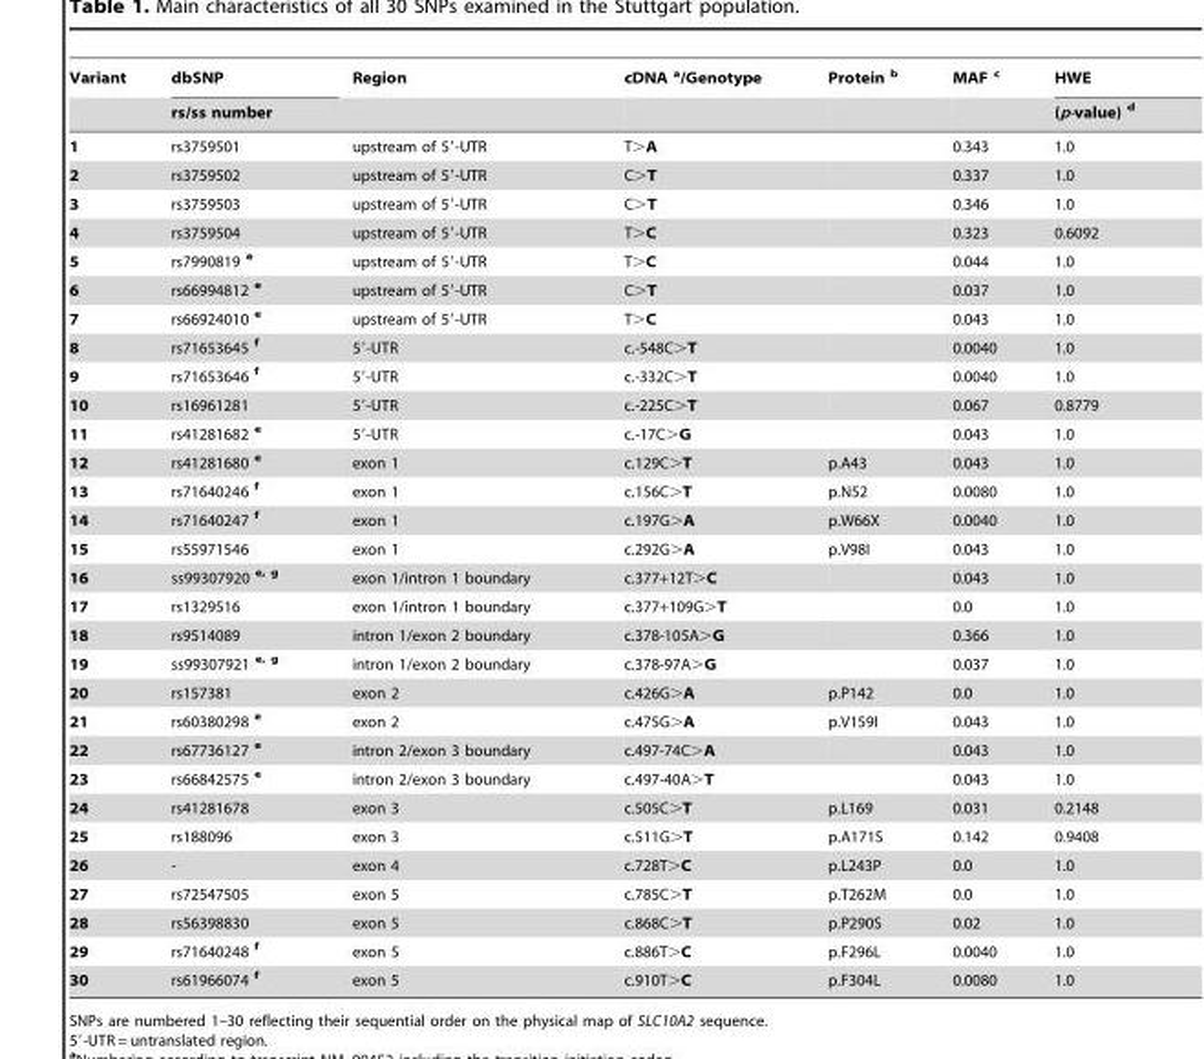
<table><thead><tr><td rowspan="2">Variant</td><td rowspan="2">dbSNP rs/ss number</td><td rowspan="2">Region</td><td rowspan="2">cDNA a/Genotype</td><td rowspan="2">Protein b</td><td rowspan="2">MAF c</td><td rowspan="2">HWE (p-value) d</td></tr><tr></tr></thead><tbody><tr><td>1</td><td>rs3759501</td><td>upstream of 5′-UTR</td><td>T&gt;A</td><td></td><td>0.343</td><td>1.0</td></tr><tr><td>2</td><td>rs3759502</td><td>upstream of 5′-UTR</td><td>C&gt;T</td><td></td><td>0.337</td><td>1.0</td></tr><tr><td>3</td><td>rs3759503</td><td>upstream of 5′-UTR</td><td>C&gt;T</td><td></td><td>0.346</td><td>1.0</td></tr><tr><td>4</td><td>rs3759504</td><td>upstream of 5′-UTR</td><td>T&gt;C</td><td></td><td>0.323</td><td>0.6092</td></tr><tr><td>5</td><td>rs7990819 e</td><td>upstream of 5′-UTR</td><td>T&gt;C</td><td></td><td>0.044</td><td>1.0</td></tr><tr><td>6</td><td>rs66994812 e</td><td>upstream of 5′-UTR</td><td>C&gt;T</td><td></td><td>0.037</td><td>1.0</td></tr><tr><td>7</td><td>rs66924010 e</td><td>upstream of 5′-UTR</td><td>T&gt;C</td><td></td><td>0.043</td><td>1.0</td></tr><tr><td>8</td><td>rs71653645 f</td><td>5′-UTR</td><td>c.-548C&gt;T</td><td></td><td>0.0040</td><td>1.0</td></tr><tr><td>9</td><td>rs71653646 f</td><td>5′-UTR</td><td>c.-332C&gt;T</td><td></td><td>0.0040</td><td>1.0</td></tr><tr><td>10</td><td>rs16961281</td><td>5′-UTR</td><td>c.-225C&gt;T</td><td></td><td>0.067</td><td>0.8779</td></tr><tr><td>11</td><td>rs41281682 e</td><td>5′-UTR</td><td>c.-17C&gt;G</td><td></td><td>0.043</td><td>1.0</td></tr><tr><td>12</td><td>rs41281680 e</td><td>exon 1</td><td>c.129C&gt;T</td><td>p.A43</td><td>0.043</td><td>1.0</td></tr><tr><td>13</td><td>rs71640246 f</td><td>exon 1</td><td>c.156C&gt;T</td><td>p.N52</td><td>0.0080</td><td>1.0</td></tr><tr><td>14</td><td>rs71640247 f</td><td>exon 1</td><td>c.197G&gt;A</td><td>p.W66X</td><td>0.0040</td><td>1.0</td></tr><tr><td>15</td><td>rs55971546</td><td>exon 1</td><td>c.292G&gt;A</td><td>p.V98I</td><td>0.043</td><td>1.0</td></tr><tr><td>16</td><td>ss99307920 e, g</td><td>exon 1/intron 1 boundary</td><td>c.377+12T&gt;C</td><td></td><td>0.043</td><td>1.0</td></tr><tr><td>17</td><td>rs1329516</td><td>exon 1/intron 1 boundary</td><td>c.377+109G&gt;T</td><td></td><td>0.0</td><td>1.0</td></tr><tr><td>18</td><td>rs9514089</td><td>intron 1/exon 2 boundary</td><td>c.378-105A&gt;G</td><td></td><td>0.366</td><td>1.0</td></tr><tr><td>19</td><td>ss99307921 e, g</td><td>intron 1/exon 2 boundary</td><td>c.378-97A&gt;G</td><td></td><td>0.037</td><td>1.0</td></tr><tr><td>20</td><td>rs157381</td><td>exon 2</td><td>c.426G&gt;A</td><td>p.P142</td><td>0.0</td><td>1.0</td></tr><tr><td>21</td><td>rs60380298 e</td><td>exon 2</td><td>c.475G&gt;A</td><td>p.V159I</td><td>0.043</td><td>1.0</td></tr><tr><td>22</td><td>rs67736127 e</td><td>intron 2/exon 3 boundary</td><td>c.497-74C&gt;A</td><td></td><td>0.043</td><td>1.0</td></tr><tr><td>23</td><td>rs66842575 e</td><td>intron 2/exon 3 boundary</td><td>c.497-40A&gt;T</td><td></td><td>0.043</td><td>1.0</td></tr><tr><td>24</td><td>rs41281678</td><td>exon 3</td><td>c.505C&gt;T</td><td>p.L169</td><td>0.031</td><td>0.2148</td></tr><tr><td>25</td><td>rs188096</td><td>exon 3</td><td>c.511G&gt;T</td><td>p.A171S</td><td>0.142</td><td>0.9408</td></tr><tr><td>26</td><td>-</td><td>exon 4</td><td>c.728T&gt;C</td><td>p.L243P</td><td>0.0</td><td>1.0</td></tr><tr><td>27</td><td>rs72547505</td><td>exon 5</td><td>c.785C&gt;T</td><td>p.T262M</td><td>0.0</td><td>1.0</td></tr><tr><td>28</td><td>rs56398830</td><td>exon 5</td><td>c.868C&gt;T</td><td>p.P290S</td><td>0.02</td><td>1.0</td></tr><tr><td>29</td><td>rs71640248 f</td><td>exon 5</td><td>c.886T&gt;C</td><td>p.F296L</td><td>0.0040</td><td>1.0</td></tr><tr><td>30</td><td>rs61966074 f</td><td>exon 5</td><td>c.910T&gt;C</td><td>p.F304L</td><td>0.0080</td><td>1.0</td></tr></tbody></table>